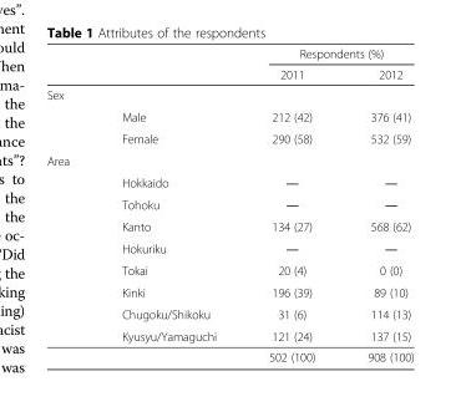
<table><thead><tr><td rowspan="2"></td><td rowspan="2"></td><td colspan="2">Respondents (%)</td></tr><tr><td>2011</td><td>2012</td></tr></thead><tbody><tr><td colspan="4">Sex</td></tr><tr><td></td><td>Male</td><td>212 (42)</td><td>376 (41)</td></tr><tr><td></td><td>Female</td><td>290 (58)</td><td>532 (59)</td></tr><tr><td colspan="4">Area</td></tr><tr><td></td><td>Hokkaido</td><td>―</td><td>―</td></tr><tr><td></td><td>Tohoku</td><td>―</td><td>―</td></tr><tr><td></td><td>Kanto</td><td>134 (27)</td><td>568 (62)</td></tr><tr><td></td><td>Hokuriku</td><td>―</td><td>―</td></tr><tr><td></td><td>Tokai</td><td>20 (4)</td><td>0 (0)</td></tr><tr><td></td><td>Kinki</td><td>196 (39)</td><td>89 (10)</td></tr><tr><td></td><td>Chugoku/Shikoku</td><td>31 (6)</td><td>114 (13)</td></tr><tr><td></td><td>Kyusyu/Yamaguchi</td><td>121 (24)</td><td>137 (15)</td></tr><tr><td></td><td></td><td>502 (100)</td><td>908 (100)</td></tr></tbody></table>